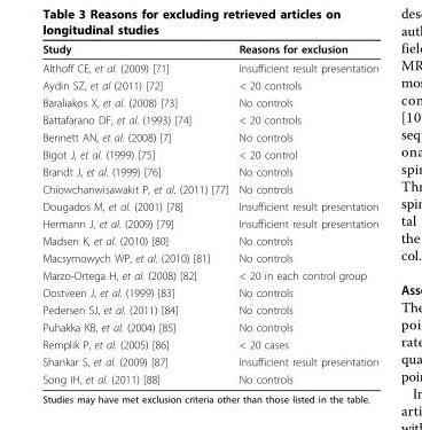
<table><thead><tr><td>Study</td><td>Reasons for exclusion</td></tr></thead><tbody><tr><td>Althoff CE, et al. (2009) [71]</td><td>Insufficient result presentation</td></tr><tr><td>Aydin SZ, et al (2011) [72]</td><td>&lt; 20 controls</td></tr><tr><td>Baraliakos X, et al. (2008) [73]</td><td>No controls</td></tr><tr><td>Battafarano DF, et al. (1993) [74]</td><td>&lt; 20 controls</td></tr><tr><td>Bennett AN, et al. (2008) [7]</td><td>No controls</td></tr><tr><td>Bigot J, et al. (1999) [75]</td><td>&lt; 20 control</td></tr><tr><td>Brandt J, et al. (1999) [76]</td><td>No controls</td></tr><tr><td>Chiowchanwisawakit P, et al. (2011) [77]</td><td>No controls</td></tr><tr><td>Dougados M, et al. (2001) [78]</td><td>Insufficient result presentation</td></tr><tr><td>Hermann J, et al. (2009) [79]</td><td>Insufficient result presentation</td></tr><tr><td>Madsen K, et al. (2010) [80]</td><td>No controls</td></tr><tr><td>Macsymowych WP, et al. (2010) [81]</td><td>No controls</td></tr><tr><td>Marzo-Ortega H, et al. (2008) [82]</td><td>&lt; 20 in each control group</td></tr><tr><td>Oostveen J, et al. (1999) [83]</td><td>No controls</td></tr><tr><td>Pedersen SJ, et al. (2011) [84]</td><td>No controls</td></tr><tr><td>Puhakka KB, et al. (2004) [85]</td><td>No controls</td></tr><tr><td>Remplik P, et al. (2005) [86]</td><td>&lt; 20 cases</td></tr><tr><td>Shankar S, et al. (2009) [87]</td><td>Insufficient result presentation</td></tr><tr><td>Song IH, et al. (2011) [88]</td><td>No controls</td></tr></tbody></table>